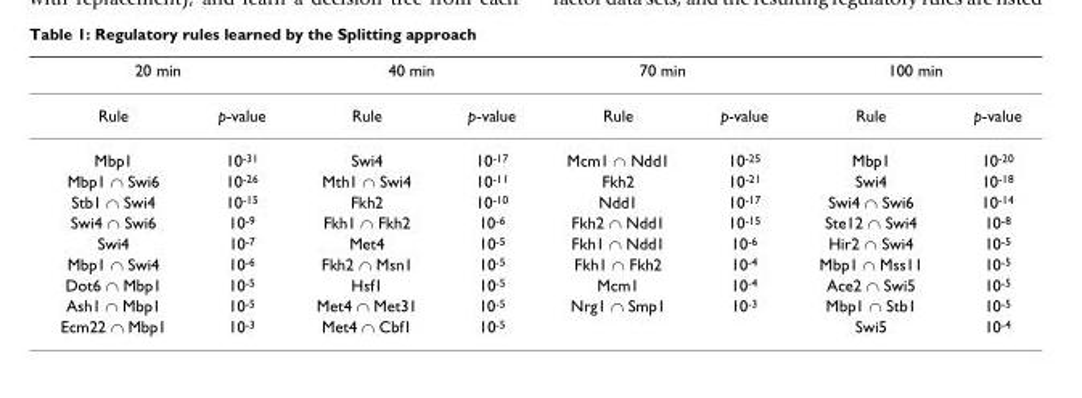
<table><thead><tr><td colspan="2">20 min</td><td colspan="2">40 min</td><td colspan="2">70 min</td><td colspan="2">100 min</td></tr><tr><td>Rule</td><td>p-value</td><td>Rule</td><td>p-value</td><td>Rule</td><td>p-value</td><td>Rule</td><td>p-value</td></tr></thead><tbody><tr><td>Mbp1</td><td>10<sup>-31</sup></td><td>Swi4</td><td>10<sup>-17</sup></td><td>Mcm1 ∩ Ndd1</td><td>10<sup>-25</sup></td><td>Mbp1</td><td>10<sup>-20</sup></td></tr><tr><td>Mbp1 ∩ Swi6</td><td>10<sup>-26</sup></td><td>Mth1 ∩ Swi4</td><td>10<sup>-11</sup></td><td>Fkh2</td><td>10<sup>-21</sup></td><td>Swi4</td><td>10<sup>-18</sup></td></tr><tr><td>Stb1 ∩ Swi4</td><td>10<sup>-15</sup></td><td>Fkh2</td><td>10<sup>-10</sup></td><td>Ndd1</td><td>10<sup>-17</sup></td><td>Swi4 ∩ Swi6</td><td>10<sup>-14</sup></td></tr><tr><td>Swi4 ∩ Swi6</td><td>10<sup>-9</sup></td><td>Fkh1 ∩ Fkh2</td><td>10<sup>-6</sup></td><td>Fkh2 ∩ Ndd1</td><td>10<sup>-15</sup></td><td>Ste12 ∩ Swi4</td><td>10<sup>-8</sup></td></tr><tr><td>Swi4</td><td>10<sup>-7</sup></td><td>Met4</td><td>10<sup>-5</sup></td><td>Fkh1 ∩ Ndd1</td><td>10<sup>-6</sup></td><td>Hir2 ∩ Swi4</td><td>10<sup>-5</sup></td></tr><tr><td>Mbp1 ∩ Swi4</td><td>10<sup>-6</sup></td><td>Fkh2 ∩ Msn1</td><td>10<sup>-5</sup></td><td>Fkh1 ∩ Fkh2</td><td>10<sup>-4</sup></td><td>Mbp1 ∩ Mss11</td><td>10<sup>-5</sup></td></tr><tr><td>Dot6 ∩ Mbp1</td><td>10<sup>-5</sup></td><td>Hsf1</td><td>10<sup>-5</sup></td><td>Mcm1</td><td>10<sup>-4</sup></td><td>Ace2 ∩ Swi5</td><td>10<sup>-5</sup></td></tr><tr><td>Ash1 ∩ Mbp1</td><td>10<sup>-5</sup></td><td>Met4 ∩ Met31</td><td>10<sup>-5</sup></td><td>Nrg1 ∩ Smp1</td><td>10<sup>-3</sup></td><td>Mbp1 ∩ Stb1</td><td>10<sup>-5</sup></td></tr><tr><td>Ecm22 ∩ Mbp1</td><td>10<sup>-3</sup></td><td>Met4 ∩ Cbf1</td><td>10<sup>-5</sup></td><td></td><td></td><td>Swi5</td><td>10<sup>-4</sup></td></tr></tbody></table>